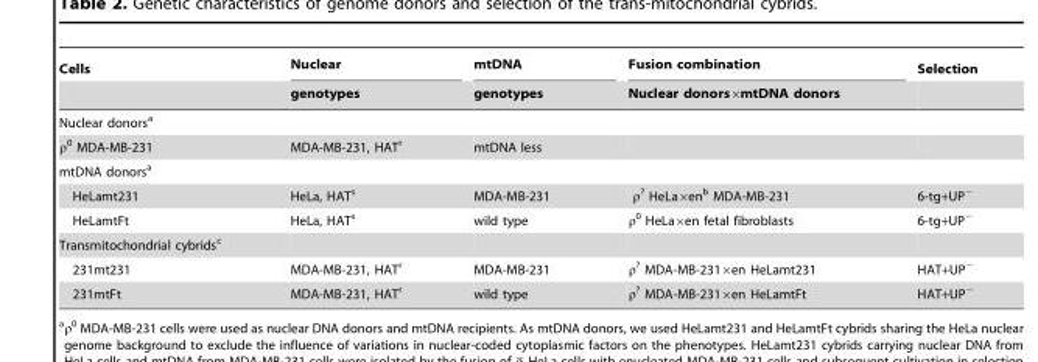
<table><thead><tr><td rowspan="2">Cells</td><td rowspan="2">Nuclear genotypes</td><td rowspan="2">mtDNA genotypes</td><td rowspan="2">Fusion combination Nuclear donors×mtDNA donors</td><td rowspan="2">Selection</td></tr><tr></tr></thead><tbody><tr><td colspan="5">Nuclear donors<sup>a</sup></td></tr><tr><td>ρ<sup>0</sup> MDA-MB-231</td><td>MDA-MB-231, HAT<sup>r</sup></td><td>mtDNA less</td><td></td><td></td></tr><tr><td colspan="5">mtDNA donors<sup>a</sup></td></tr><tr><td>HeLamt231</td><td>HeLa, HAT<sup>s</sup></td><td>MDA-MB-231</td><td>ρ<sup>?</sup> HeLa×en<sup>b</sup> MDA-MB-231</td><td>6-tg+UP<sup>−</sup></td></tr><tr><td>HeLamtFt</td><td>HeLa, HAT<sup>s</sup></td><td>wild type</td><td>ρ<sup>0</sup> HeLa×en fetal fibroblasts</td><td>6-tg+UP<sup>−</sup></td></tr><tr><td colspan="5">Transmitochondrial cybrids<sup>c</sup></td></tr><tr><td>231mt231</td><td>MDA-MB-231, HAT<sup>r</sup></td><td>MDA-MB-231</td><td>ρ<sup>?</sup> MDA-MB-231×en HeLamt231</td><td>HAT+UP<sup>−</sup></td></tr><tr><td>231mtFt</td><td>MDA-MB-231, HAT<sup>r</sup></td><td>wild type</td><td>ρ<sup>?</sup> MDA-MB-231×en HeLamtFt</td><td>HAT+UP<sup>−</sup></td></tr></tbody></table>